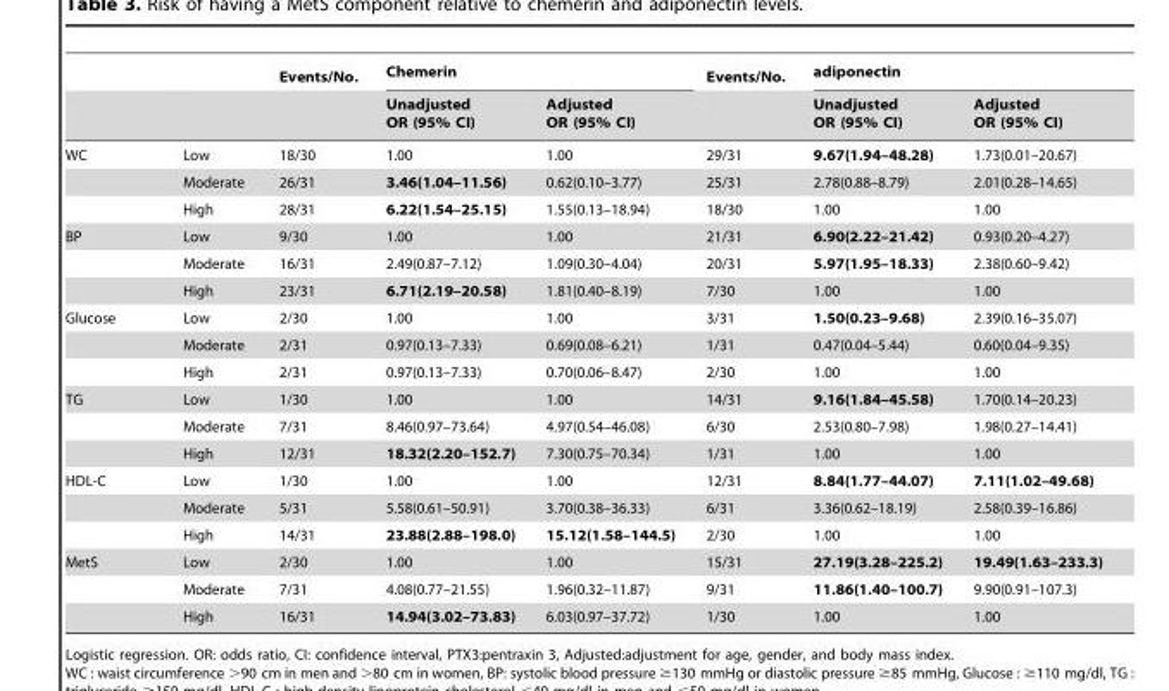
<table><thead><tr><td rowspan="2"></td><td rowspan="2"></td><td rowspan="2">Events/No.</td><td colspan="2">Chemerin</td><td rowspan="2">Events/No.</td><td colspan="2">adiponectin</td></tr><tr><td>Unadjusted OR (95% CI)</td><td>Adjusted OR (95% CI)</td><td>Unadjusted OR (95% CI)</td><td>Adjusted OR (95% CI)</td></tr></thead><tbody><tr><td rowspan="3">WC</td><td>Low</td><td>18/30</td><td>1.00</td><td>1.00</td><td>29/31</td><td>9.67(1.94–48.28)</td><td>1.73(0.01–20.67)</td></tr><tr><td>Moderate</td><td>26/31</td><td>3.46(1.04–11.56)</td><td>0.62(0.10–3.77)</td><td>25/31</td><td>2.78(0.88–8.79)</td><td>2.01(0.28–14.65)</td></tr><tr><td>High</td><td>28/31</td><td>6.22(1.54–25.15)</td><td>1.55(0.13–18.94)</td><td>18/30</td><td>1.00</td><td>1.00</td></tr><tr><td rowspan="3">BP</td><td>Low</td><td>9/30</td><td>1.00</td><td>1.00</td><td>21/31</td><td>6.90(2.22–21.42)</td><td>0.93(0.20–4.27)</td></tr><tr><td>Moderate</td><td>16/31</td><td>2.49(0.87–7.12)</td><td>1.09(0.30–4.04)</td><td>20/31</td><td>5.97(1.95–18.33)</td><td>2.38(0.60–9.42)</td></tr><tr><td>High</td><td>23/31</td><td>6.71(2.19–20.58)</td><td>1.81(0.40–8.19)</td><td>7/30</td><td>1.00</td><td>1.00</td></tr><tr><td rowspan="3">Glucose</td><td>Low</td><td>2/30</td><td>1.00</td><td>1.00</td><td>3/31</td><td>1.50(0.23–9.68)</td><td>2.39(0.16–35.07)</td></tr><tr><td>Moderate</td><td>2/31</td><td>0.97(0.13–7.33)</td><td>0.69(0.08–6.21)</td><td>1/31</td><td>0.47(0.04–5.44)</td><td>0.60(0.04–9.35)</td></tr><tr><td>High</td><td>2/31</td><td>0.97(0.13–7.33)</td><td>0.70(0.06–8.47)</td><td>2/30</td><td>1.00</td><td>1.00</td></tr><tr><td rowspan="3">TG</td><td>Low</td><td>1/30</td><td>1.00</td><td>1.00</td><td>14/31</td><td>9.16(1.84–45.58)</td><td>1.70(0.14–20.23)</td></tr><tr><td>Moderate</td><td>7/31</td><td>8.46(0.97–73.64)</td><td>4.97(0.54–46.08)</td><td>6/30</td><td>2.53(0.80–7.98)</td><td>1.98(0.27–14.41)</td></tr><tr><td>High</td><td>12/31</td><td>18.32(2.20–152.7)</td><td>7.30(0.75–70.34)</td><td>1/31</td><td>1.00</td><td>1.00</td></tr><tr><td rowspan="3">HDL-C</td><td>Low</td><td>1/30</td><td>1.00</td><td>1.00</td><td>12/31</td><td>8.84(1.77–44.07)</td><td>7.11(1.02–49.68)</td></tr><tr><td>Moderate</td><td>5/31</td><td>5.58(0.61–50.91)</td><td>3.70(0.38–36.33)</td><td>6/31</td><td>3.36(0.62–18.19)</td><td>2.58(0.39–16.86)</td></tr><tr><td>High</td><td>14/31</td><td>23.88(2.88–198.0)</td><td>15.12(1.58–144.5)</td><td>2/30</td><td>1.00</td><td>1.00</td></tr><tr><td rowspan="3">MetS</td><td>Low</td><td>2/30</td><td>1.00</td><td>1.00</td><td>15/31</td><td>27.19(3.28–225.2)</td><td>19.49(1.63–233.3)</td></tr><tr><td>Moderate</td><td>7/31</td><td>4.08(0.77–21.55)</td><td>1.96(0.32–11.87)</td><td>9/31</td><td>11.86(1.40–100.7)</td><td>9.90(0.91–107.3)</td></tr><tr><td>High</td><td>16/31</td><td>14.94(3.02–73.83)</td><td>6.03(0.97–37.72)</td><td>1/30</td><td>1.00</td><td>1.00</td></tr></tbody></table>